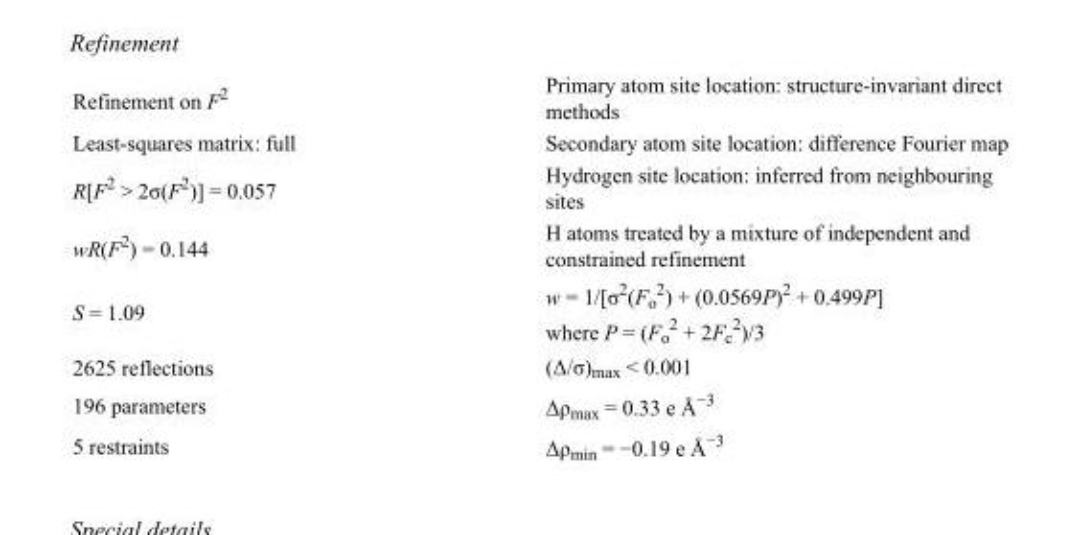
<table><tbody><tr><td>Refinement on F<sup>2</sup></td><td>Primary atom site location: structure-invariant direct methods</td></tr><tr><td>Least-squares matrix: full</td><td>Secondary atom site location: difference Fourier map</td></tr><tr><td>R[F<sup>2</sup> &gt; 2σ(F<sup>2</sup>)] = 0.057</td><td>Hydrogen site location: inferred from neighbouring sites</td></tr><tr><td>wR(F<sup>2</sup>) = 0.144</td><td>H atoms treated by a mixture of independent and constrained refinement</td></tr><tr><td>S = 1.09</td><td>w = 1/[σ<sup>2</sup>(F<sub>o</sub> <sup>2</sup>) + (0.0569P)<sup>2</sup> + 0.499P] where P = (F<sub>o</sub> <sup>2</sup> + 2F<sub>c</sub> <sup>2</sup>)/3</td></tr><tr><td>2625 reflections</td><td>(Δ/σ)<sub>max</sub> &lt; 0.001</td></tr><tr><td>196 parameters</td><td>Δρ<sub>max</sub> = 0.33 e Å<sup>−3</sup></td></tr><tr><td>5 restraints</td><td>Δρ<sub>min</sub> = −0.19 e Å<sup>−3</sup></td></tr></tbody></table>